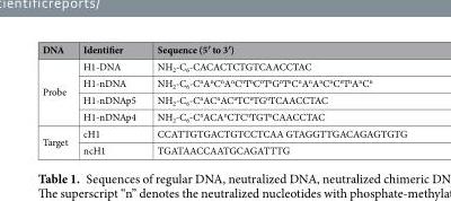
<table><thead><tr><td>DNA</td><td>Identifier</td><td>Sequence (5′ to 3′)</td></tr></thead><tbody><tr><td rowspan="4">Probe</td><td>H1-DNA</td><td>NH<sub>2</sub>-C<sub>6</sub>-CACACTCTGTCAACCTAC</td></tr><tr><td>H1-nDNA</td><td>NH<sub>2</sub>-C<sub>6</sub>-C<sup>n</sup>A<sup>n</sup>C<sup>n</sup>A<sup>n</sup>C<sup>n</sup>T<sup>n</sup>C<sup>n</sup>T<sup>n</sup>G<sup>n</sup>T<sup>n</sup>C<sup>n</sup>A<sup>n</sup>A<sup>n</sup>C<sup>n</sup>C<sup>n</sup>T<sup>n</sup>A<sup>n</sup>C<sup>n</sup></td></tr><tr><td>H1-nDNAp5</td><td>NH<sub>2</sub>-C<sub>6</sub>-C<sup>n</sup>AC<sup>n</sup>AC<sup>n</sup>TC<sup>n</sup>TG<sup>n</sup>TCAACCTAC</td></tr><tr><td>H1-nDNAp4</td><td>NH<sub>2</sub>-C<sub>6</sub>-C<sup>n</sup>ACA<sup>n</sup>CTC<sup>n</sup>TGT<sup>n</sup>CAACCTAC</td></tr><tr><td rowspan="2">Target</td><td>cH1</td><td>CCATTGTGACTGTCCTCAA GTAGGTTGACAGAGTGTG</td></tr><tr><td>ncH1</td><td>TGATAACCAATGCAGATTTG</td></tr></tbody></table>